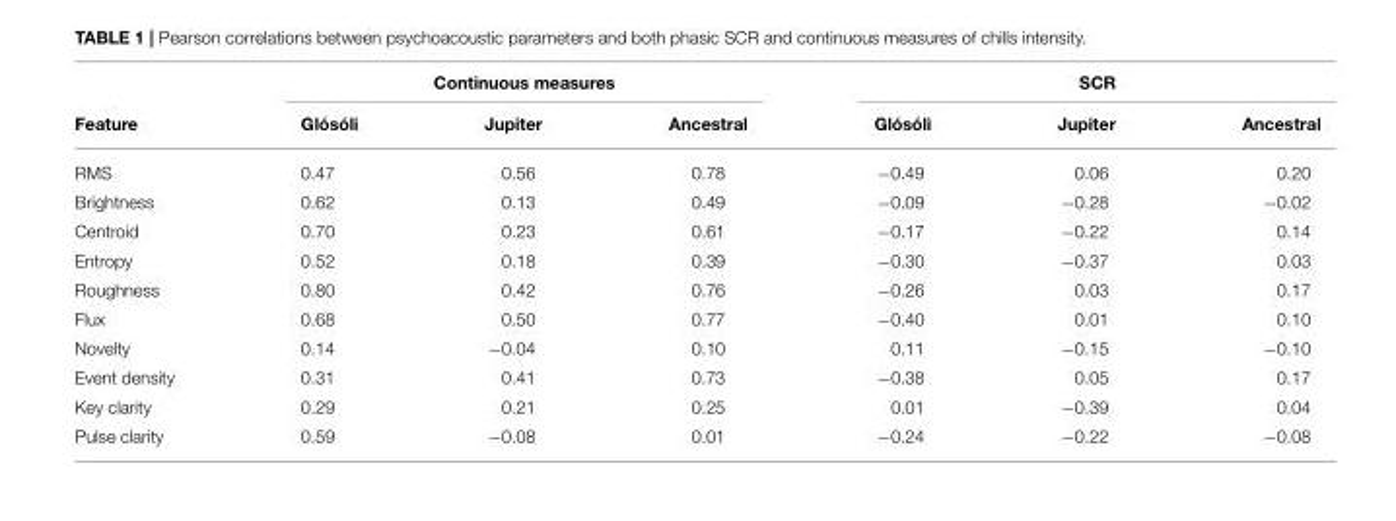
<table><thead><tr><td rowspan="2">Feature</td><td colspan="3">Continuous measures</td><td colspan="3">SCR</td></tr><tr><td>Glósóli</td><td>Jupiter</td><td>Ancestral</td><td>Glósóli</td><td>Jupiter</td><td>Ancestral</td></tr></thead><tbody><tr><td>RMS</td><td>0.47</td><td>0.56</td><td>0.78</td><td>−0.49</td><td>0.06</td><td>0.20</td></tr><tr><td>Brightness</td><td>0.62</td><td>0.13</td><td>0.49</td><td>−0.09</td><td>−0.28</td><td>−0.02</td></tr><tr><td>Centroid</td><td>0.70</td><td>0.23</td><td>0.61</td><td>−0.17</td><td>−0.22</td><td>0.14</td></tr><tr><td>Entropy</td><td>0.52</td><td>0.18</td><td>0.39</td><td>−0.30</td><td>−0.37</td><td>0.03</td></tr><tr><td>Roughness</td><td>0.80</td><td>0.42</td><td>0.76</td><td>−0.26</td><td>0.03</td><td>0.17</td></tr><tr><td>Flux</td><td>0.68</td><td>0.50</td><td>0.77</td><td>−0.40</td><td>0.01</td><td>0.10</td></tr><tr><td>Novelty</td><td>0.14</td><td>−0.04</td><td>0.10</td><td>0.11</td><td>−0.15</td><td>−0.10</td></tr><tr><td>Event density</td><td>0.31</td><td>0.41</td><td>0.73</td><td>−0.38</td><td>0.05</td><td>0.17</td></tr><tr><td>Key clarity</td><td>0.29</td><td>0.21</td><td>0.25</td><td>0.01</td><td>−0.39</td><td>0.04</td></tr><tr><td>Pulse clarity</td><td>0.59</td><td>−0.08</td><td>0.01</td><td>−0.24</td><td>−0.22</td><td>−0.08</td></tr></tbody></table>